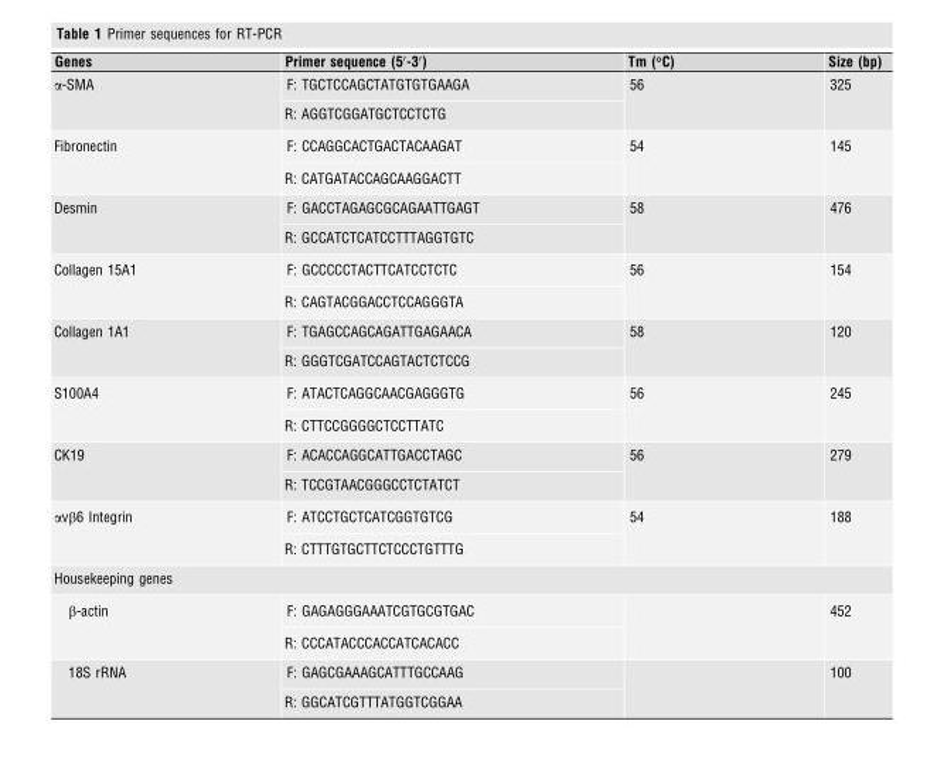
<table><thead><tr><td>Genes</td><td>Primer sequence (5′-3′)</td><td>Tm (°C)</td><td>Size (bp)</td></tr></thead><tbody><tr><td rowspan="2">α-SMA</td><td>F: TGCTCCAGCTATGTGTGAAGA</td><td rowspan="2">56</td><td rowspan="2">325</td></tr><tr><td>R: AGGTCGGATGCTCCTCTG</td></tr><tr><td rowspan="2">Fibronectin</td><td>F: CCAGGCACTGACTACAAGAT</td><td rowspan="2">54</td><td rowspan="2">145</td></tr><tr><td>R: CATGATACCAGCAAGGACTT</td></tr><tr><td rowspan="2">Desmin</td><td>F: GACCTAGAGCGCAGAATTGAGT</td><td rowspan="2">58</td><td rowspan="2">476</td></tr><tr><td>R: GCCATCTCATCCTTTAGGTGTC</td></tr><tr><td rowspan="2">Collagen 15A1</td><td>F: GCCCCCTACTTCATCCTCTC</td><td rowspan="2">56</td><td rowspan="2">154</td></tr><tr><td>R: CAGTACGGACCTCCAGGGTA</td></tr><tr><td rowspan="2">Collagen 1A1</td><td>F: TGAGCCAGCAGATTGAGAACA</td><td rowspan="2">58</td><td rowspan="2">120</td></tr><tr><td>R: GGGTCGATCCAGTACTCTCCG</td></tr><tr><td rowspan="2">S100A4</td><td>F: ATACTCAGGCAACGAGGGTG</td><td rowspan="2">56</td><td rowspan="2">245</td></tr><tr><td>R: CTTCCGGGGCTCCTTATC</td></tr><tr><td rowspan="2">CK19</td><td>F: ACACCAGGCATTGACCTAGC</td><td rowspan="2">56</td><td rowspan="2">279</td></tr><tr><td>R: TCCGTAACGGGCCTCTATCT</td></tr><tr><td rowspan="2">αvβ6 Integrin</td><td>F: ATCCTGCTCATCGGTGTCG</td><td rowspan="2">54</td><td rowspan="2">188</td></tr><tr><td>R: CTTTGTGCTTCTCCCTGTTTG</td></tr><tr><td colspan="4">Housekeeping genes</td></tr><tr><td rowspan="2">β-actin</td><td>F: GAGAGGGAAATCGTGCGTGAC</td><td rowspan="2"></td><td rowspan="2">452</td></tr><tr><td>R: CCCATACCCACCATCACACC</td></tr><tr><td rowspan="2">18S rRNA</td><td>F: GAGCGAAAGCATTTGCCAAG</td><td rowspan="2"></td><td rowspan="2">100</td></tr><tr><td>R: GGCATCGTTTATGGTCGGAA</td></tr></tbody></table>